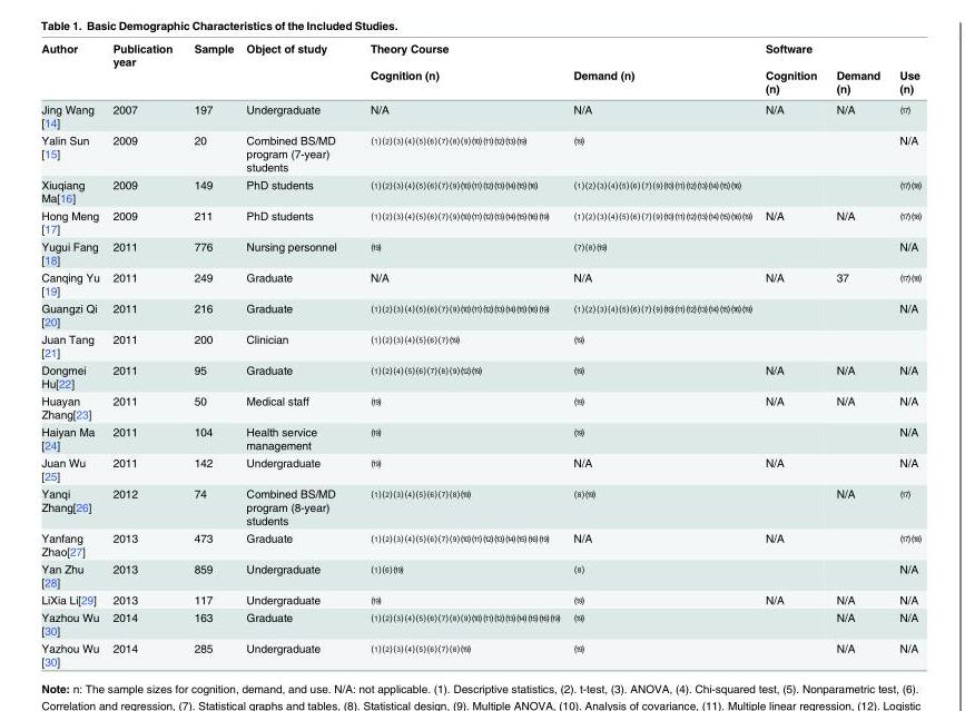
<table><thead><tr><td rowspan="2">Author</td><td rowspan="2">Publication year</td><td rowspan="2">Sample</td><td rowspan="2">Object of study</td><td rowspan="2">Theory Course Cognition (n)</td><td rowspan="2">Demand (n)</td><td rowspan="2">Software Cognition (n)</td><td rowspan="2">Demand (n)</td><td rowspan="2">Use (n)</td></tr><tr></tr></thead><tbody><tr><td>Jing Wang [14]</td><td>2007</td><td>197</td><td>Undergraduate</td><td>N/A</td><td>N/A</td><td>N/A</td><td>N/A</td><td>⒄</td></tr><tr><td>Yalin Sun [15]</td><td>2009</td><td>20</td><td>Combined BS/MD program (7-year) students</td><td>⑴⑵⑶⑷⑸⑹⑺⑻⑼⑽⑾⑿⒀⒆</td><td>⒆</td><td>⒇</td><td>⒇</td><td>N/A</td></tr><tr><td>Xiuqiang Ma[16]</td><td>2009</td><td>149</td><td>PhD students</td><td>⑴⑵⑶⑷⑸⑹⑺⑼⑽⑾⑿⒀⒁⒂⒃</td><td>⑴⑵⑶⑷⑸⑹⑺⑼⑽⑾⑿⒀⒁⒂⒃</td><td>⒇</td><td>⒇</td><td>⒄⒅</td></tr><tr><td>Hong Meng [17]</td><td>2009</td><td>211</td><td>PhD students</td><td>⑴⑵⑶⑷⑸⑹⑺⑼⑽⑾⑿⒀⒁⒂⒃⒆</td><td>⑴⑵⑶⑷⑸⑹⑺⑼⑽⑾⑿⒀⒁⒂⒃⒆</td><td>N/A</td><td>N/A</td><td>⒄⒅</td></tr><tr><td>Yugui Fang [18]</td><td>2011</td><td>776</td><td>Nursing personnel</td><td>⒆</td><td>⑺⑻⒆</td><td>⒇</td><td>⒇</td><td>N/A</td></tr><tr><td>Canqing Yu [19]</td><td>2011</td><td>249</td><td>Graduate</td><td>N/A</td><td>N/A</td><td>N/A</td><td>37</td><td>⒄⒅</td></tr><tr><td>Guangzi Qi [20]</td><td>2011</td><td>216</td><td>Graduate</td><td>⑴⑵⑶⑷⑸⑹⑺⑼⑽⑾⑿⒀⒁⒂⒃⒆</td><td>⑴⑵⑶⑷⑸⑹⑺⑼⑽⑾⑿⒀⒁⒂⒃⒆</td><td>⒇</td><td>⒇</td><td>N/A</td></tr><tr><td>Juan Tang [21]</td><td>2011</td><td>200</td><td>Clinician</td><td>⑴⑵⑶⑷⑸⑹⑺⒆</td><td>⒆</td><td>⒇</td><td>⒇</td><td></td></tr><tr><td>Dongmei Hu[22]</td><td>2011</td><td>95</td><td>Graduate</td><td>⑴⑵⑷⑸⑹⑺⑻⑼⑿⒆</td><td>⒆</td><td>N/A</td><td>N/A</td><td>N/A</td></tr><tr><td>Huayan Zhang[23]</td><td>2011</td><td>50</td><td>Medical staff</td><td>⒆</td><td>⒆</td><td>N/A</td><td>N/A</td><td>N/A</td></tr><tr><td>Haiyan Ma [24]</td><td>2011</td><td>104</td><td>Health service management</td><td>⒆</td><td>⒆</td><td>⒇</td><td>⒇</td><td>N/A</td></tr><tr><td>Juan Wu [25]</td><td>2011</td><td>142</td><td>Undergraduate</td><td>⒆</td><td>N/A</td><td>N/A</td><td>⒇</td><td>N/A</td></tr><tr><td>Yanqi Zhang[26]</td><td>2012</td><td>74</td><td>Combined BS/MD program (8-year) students</td><td>⑴⑵⑶⑷⑸⑹⑺⑻⒆</td><td>⑻⒆</td><td>⒇</td><td>N/A</td><td>⒄</td></tr><tr><td>Yanfang Zhao[27]</td><td>2013</td><td>473</td><td>Graduate</td><td>⑴⑵⑶⑷⑸⑹⑺⑼⑽⑾⑿⒀⒁⒂⒃⒆</td><td>N/A</td><td>N/A</td><td>⒇</td><td>⒄⒅</td></tr><tr><td>Yan Zhu [28]</td><td>2013</td><td>859</td><td>Undergraduate</td><td>⑴⑹⒆</td><td>⑻</td><td>⒇</td><td>⒇</td><td>N/A</td></tr><tr><td>LiXia Li[29]</td><td>2013</td><td>117</td><td>Undergraduate</td><td>⒆</td><td>⒆</td><td>N/A</td><td>N/A</td><td>N/A</td></tr><tr><td>Yazhou Wu [30]</td><td>2014</td><td>163</td><td>Graduate</td><td>⑴⑵⑶⑷⑸⑹⑺⑻⑼⑽⑾⑿⒀⒁⒂⒃⒆</td><td>⒆</td><td>⒇</td><td>N/A</td><td>N/A</td></tr><tr><td>Yazhou Wu [30]</td><td>2014</td><td>285</td><td>Undergraduate</td><td>⑴⑵⑶⑷⑸⑹⑺⑻⒆</td><td>⒆</td><td>⒇</td><td>N/A</td><td>N/A</td></tr></tbody></table>